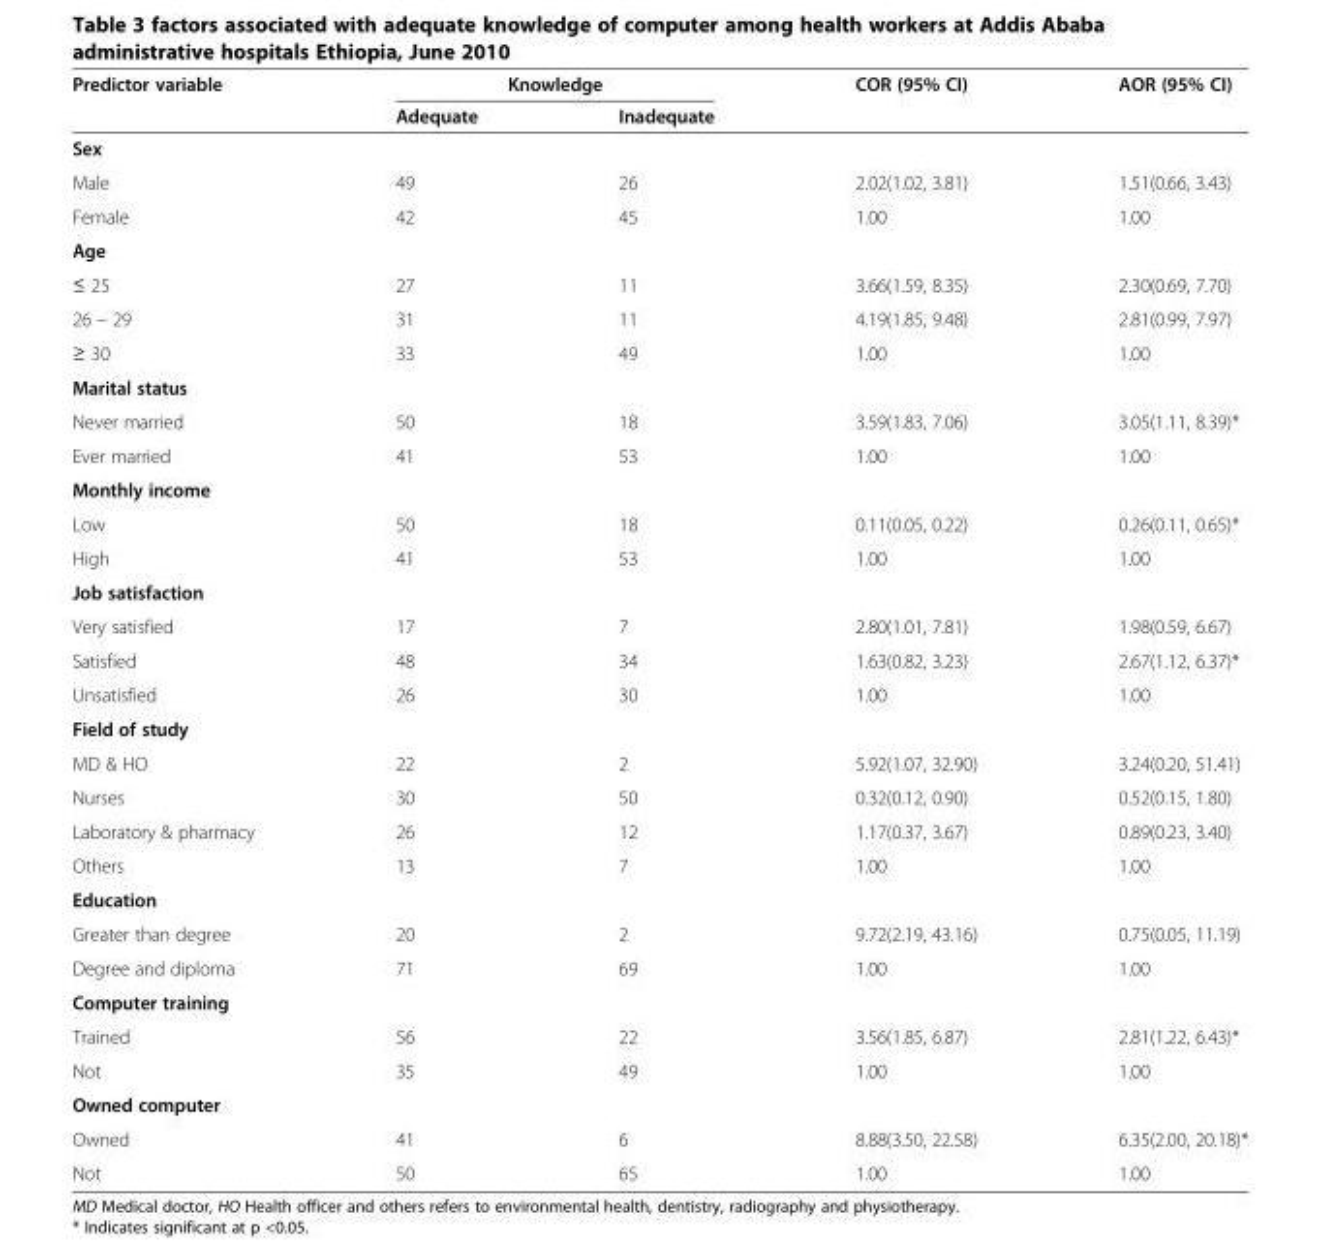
<table><thead><tr><td rowspan="2">Predictor variable</td><td colspan="2">Knowledge</td><td rowspan="2">COR (95% CI)</td><td rowspan="2">AOR (95% CI)</td></tr><tr><td>Adequate</td><td>Inadequate</td></tr></thead><tbody><tr><td colspan="5">Sex</td></tr><tr><td>Male</td><td>49</td><td>26</td><td>2.02(1.02, 3.81)</td><td>1.51(0.66, 3.43)</td></tr><tr><td>Female</td><td>42</td><td>45</td><td>1.00</td><td>1.00</td></tr><tr><td colspan="5">Age</td></tr><tr><td>≤ 25</td><td>27</td><td>11</td><td>3.66(1.59, 8.35)</td><td>2.30(0.69, 7.70)</td></tr><tr><td>26 – 29</td><td>31</td><td>11</td><td>4.19(1.85, 9.48)</td><td>2.81(0.99, 7.97)</td></tr><tr><td>≥ 30</td><td>33</td><td>49</td><td>1.00</td><td>1.00</td></tr><tr><td colspan="5">Marital status</td></tr><tr><td>Never married</td><td>50</td><td>18</td><td>3.59(1.83, 7.06)</td><td>3.05(1.11, 8.39)*</td></tr><tr><td>Ever married</td><td>41</td><td>53</td><td>1.00</td><td>1.00</td></tr><tr><td colspan="5">Monthly income</td></tr><tr><td>Low</td><td>50</td><td>18</td><td>0.11(0.05, 0.22)</td><td>0.26(0.11, 0.65)*</td></tr><tr><td>High</td><td>41</td><td>53</td><td>1.00</td><td>1.00</td></tr><tr><td colspan="5">Job satisfaction</td></tr><tr><td>Very satisfied</td><td>17</td><td>7</td><td>2.80(1.01, 7.81)</td><td>1.98(0.59, 6.67)</td></tr><tr><td>Satisfied</td><td>48</td><td>34</td><td>1.63(0.82, 3.23)</td><td>2.67(1.12, 6.37)*</td></tr><tr><td>Unsatisfied</td><td>26</td><td>30</td><td>1.00</td><td>1.00</td></tr><tr><td colspan="5">Field of study</td></tr><tr><td>MD &amp; HO</td><td>22</td><td>2</td><td>5.92(1.07, 32.90)</td><td>3.24(0.20, 51.41)</td></tr><tr><td>Nurses</td><td>30</td><td>50</td><td>0.32(0.12, 0.90)</td><td>0.52(0.15, 1.80)</td></tr><tr><td>Laboratory &amp; pharmacy</td><td>26</td><td>12</td><td>1.17(0.37, 3.67)</td><td>0.89(0.23, 3.40)</td></tr><tr><td>Others</td><td>13</td><td>7</td><td>1.00</td><td>1.00</td></tr><tr><td colspan="5">Education</td></tr><tr><td>Greater than degree</td><td>20</td><td>2</td><td>9.72(2.19, 43.16)</td><td>0.75(0.05, 11.19)</td></tr><tr><td>Degree and diploma</td><td>71</td><td>69</td><td>1.00</td><td>1.00</td></tr><tr><td colspan="5">Computer training</td></tr><tr><td>Trained</td><td>56</td><td>22</td><td>3.56(1.85, 6.87)</td><td>2.81(1.22, 6.43)*</td></tr><tr><td>Not</td><td>35</td><td>49</td><td>1.00</td><td>1.00</td></tr><tr><td colspan="5">Owned computer</td></tr><tr><td>Owned</td><td>41</td><td>6</td><td>8.88(3.50, 22.58)</td><td>6.35(2.00, 20.18)*</td></tr><tr><td>Not</td><td>50</td><td>65</td><td>1.00</td><td>1.00</td></tr></tbody></table>